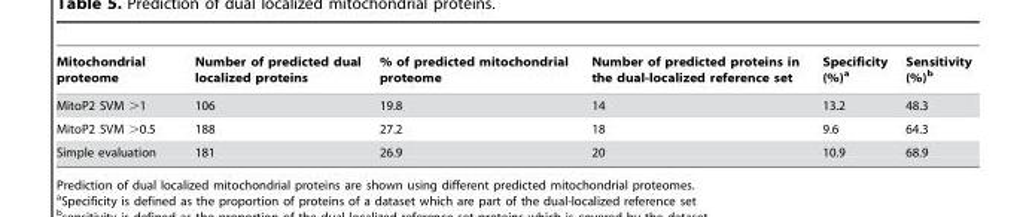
<table><thead><tr><td>Mitochondrial proteome</td><td>Number of predicted dual localized proteins</td><td>% of predicted mitochondrial proteome</td><td>Number of predicted proteins in the dual-localized reference set</td><td>Specificity (%)<sup>a</sup></td><td>Sensitivity (%)<sup>b</sup></td></tr></thead><tbody><tr><td>MitoP2 SVM &gt;1</td><td>106</td><td>19.8</td><td>14</td><td>13.2</td><td>48.3</td></tr><tr><td>MitoP2 SVM &gt;0.5</td><td>188</td><td>27.2</td><td>18</td><td>9.6</td><td>64.3</td></tr><tr><td>Simple evaluation</td><td>181</td><td>26.9</td><td>20</td><td>10.9</td><td>68.9</td></tr></tbody></table>